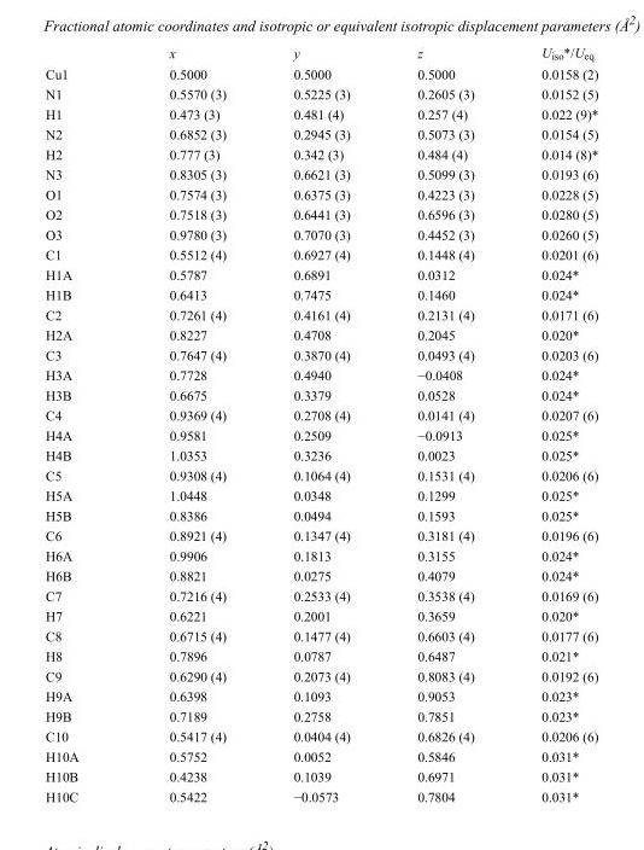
<table><thead><tr><td></td><td>x</td><td>y</td><td>z</td><td>U<sub>iso</sub>*/U<sub>eq</sub></td></tr></thead><tbody><tr><td>Cu1</td><td>0.5000</td><td>0.5000</td><td>0.5000</td><td>0.0158 (2)</td></tr><tr><td>N1</td><td>0.5570 (3)</td><td>0.5225 (3)</td><td>0.2605 (3)</td><td>0.0152 (5)</td></tr><tr><td>H1</td><td>0.473 (3)</td><td>0.481 (4)</td><td>0.257 (4)</td><td>0.022 (9)*</td></tr><tr><td>N2</td><td>0.6852 (3)</td><td>0.2945 (3)</td><td>0.5073 (3)</td><td>0.0154 (5)</td></tr><tr><td>H2</td><td>0.777 (3)</td><td>0.342 (3)</td><td>0.484 (4)</td><td>0.014 (8)*</td></tr><tr><td>N3</td><td>0.8305 (3)</td><td>0.6621 (3)</td><td>0.5099 (3)</td><td>0.0193 (6)</td></tr><tr><td>O1</td><td>0.7574 (3)</td><td>0.6375 (3)</td><td>0.4223 (3)</td><td>0.0228 (5)</td></tr><tr><td>O2</td><td>0.7518 (3)</td><td>0.6441 (3)</td><td>0.6596 (3)</td><td>0.0280 (5)</td></tr><tr><td>O3</td><td>0.9780 (3)</td><td>0.7070 (3)</td><td>0.4452 (3)</td><td>0.0260 (5)</td></tr><tr><td>C1</td><td>0.5512 (4)</td><td>0.6927 (4)</td><td>0.1448 (4)</td><td>0.0201 (6)</td></tr><tr><td>H1A</td><td>0.5787</td><td>0.6891</td><td>0.0312</td><td>0.024*</td></tr><tr><td>H1B</td><td>0.6413</td><td>0.7475</td><td>0.1460</td><td>0.024*</td></tr><tr><td>C2</td><td>0.7261 (4)</td><td>0.4161 (4)</td><td>0.2131 (4)</td><td>0.0171 (6)</td></tr><tr><td>H2A</td><td>0.8227</td><td>0.4708</td><td>0.2045</td><td>0.020*</td></tr><tr><td>C3</td><td>0.7647 (4)</td><td>0.3870 (4)</td><td>0.0493 (4)</td><td>0.0203 (6)</td></tr><tr><td>H3A</td><td>0.7728</td><td>0.4940</td><td>−0.0408</td><td>0.024*</td></tr><tr><td>H3B</td><td>0.6675</td><td>0.3379</td><td>0.0528</td><td>0.024*</td></tr><tr><td>C4</td><td>0.9369 (4)</td><td>0.2708 (4)</td><td>0.0141 (4)</td><td>0.0207 (6)</td></tr><tr><td>H4A</td><td>0.9581</td><td>0.2509</td><td>−0.0913</td><td>0.025*</td></tr><tr><td>H4B</td><td>1.0353</td><td>0.3236</td><td>0.0023</td><td>0.025*</td></tr><tr><td>C5</td><td>0.9308 (4)</td><td>0.1064 (4)</td><td>0.1531 (4)</td><td>0.0206 (6)</td></tr><tr><td>H5A</td><td>1.0448</td><td>0.0348</td><td>0.1299</td><td>0.025*</td></tr><tr><td>H5B</td><td>0.8386</td><td>0.0494</td><td>0.1593</td><td>0.025*</td></tr><tr><td>C6</td><td>0.8921 (4)</td><td>0.1347 (4)</td><td>0.3181 (4)</td><td>0.0196 (6)</td></tr><tr><td>H6A</td><td>0.9906</td><td>0.1813</td><td>0.3155</td><td>0.024*</td></tr><tr><td>H6B</td><td>0.8821</td><td>0.0275</td><td>0.4079</td><td>0.024*</td></tr><tr><td>C7</td><td>0.7216 (4)</td><td>0.2533 (4)</td><td>0.3538 (4)</td><td>0.0169 (6)</td></tr><tr><td>H7</td><td>0.6221</td><td>0.2001</td><td>0.3659</td><td>0.020*</td></tr><tr><td>C8</td><td>0.6715 (4)</td><td>0.1477 (4)</td><td>0.6603 (4)</td><td>0.0177 (6)</td></tr><tr><td>H8</td><td>0.7896</td><td>0.0787</td><td>0.6487</td><td>0.021*</td></tr><tr><td>C9</td><td>0.6290 (4)</td><td>0.2073 (4)</td><td>0.8083 (4)</td><td>0.0192 (6)</td></tr><tr><td>H9A</td><td>0.6398</td><td>0.1093</td><td>0.9053</td><td>0.023*</td></tr><tr><td>H9B</td><td>0.7189</td><td>0.2758</td><td>0.7851</td><td>0.023*</td></tr><tr><td>C10</td><td>0.5417 (4)</td><td>0.0404 (4)</td><td>0.6826 (4)</td><td>0.0206 (6)</td></tr><tr><td>H10A</td><td>0.5752</td><td>0.0052</td><td>0.5846</td><td>0.031*</td></tr><tr><td>H10B</td><td>0.4238</td><td>0.1039</td><td>0.6971</td><td>0.031*</td></tr><tr><td>H10C</td><td>0.5422</td><td>−0.0573</td><td>0.7804</td><td>0.031*</td></tr></tbody></table>